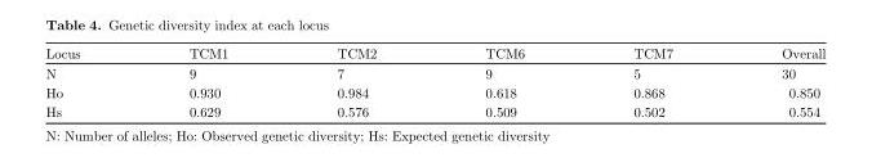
<table><thead><tr><td>Locus</td><td>TCM1</td><td>TCM2</td><td>TCM6</td><td>TCM7</td><td>Overall</td></tr></thead><tbody><tr><td>N</td><td>9</td><td>7</td><td>9</td><td>5</td><td>30</td></tr><tr><td>Ho</td><td>0.930</td><td>0.984</td><td>0.618</td><td>0.868</td><td>0.850</td></tr><tr><td>Hs</td><td>0.629</td><td>0.576</td><td>0.509</td><td>0.502</td><td>0.554</td></tr></tbody></table>